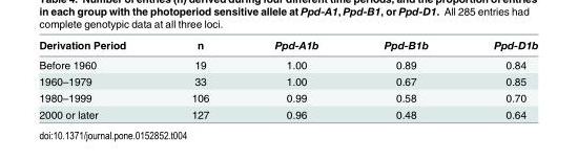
<table><thead><tr><td>Derivation Period</td><td>n</td><td>Ppd-A1b</td><td>Ppd-B1b</td><td>Ppd-D1b</td></tr></thead><tbody><tr><td>Before 1960</td><td>19</td><td>1.00</td><td>0.89</td><td>0.84</td></tr><tr><td>1960–1979</td><td>33</td><td>1.00</td><td>0.67</td><td>0.85</td></tr><tr><td>1980–1999</td><td>106</td><td>0.99</td><td>0.58</td><td>0.70</td></tr><tr><td>2000 or later</td><td>127</td><td>0.96</td><td>0.48</td><td>0.64</td></tr></tbody></table>